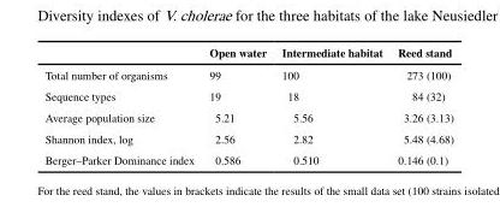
<table><thead><tr><td></td><td>Open water</td><td>Intermediate habitat</td><td>Reed stand</td></tr></thead><tbody><tr><td>Total number of organisms</td><td>99</td><td>100</td><td>273 (100)</td></tr><tr><td>Sequence types</td><td>19</td><td>18</td><td>84 (32)</td></tr><tr><td>Average population size</td><td>5.21</td><td>5.56</td><td>3.26 (3.13)</td></tr><tr><td>Shannon index, log</td><td>2.56</td><td>2.82</td><td>5.48 (4.68)</td></tr><tr><td>Berger–Parker Dominance index</td><td>0.586</td><td>0.510</td><td>0.146 (0.1)</td></tr></tbody></table>